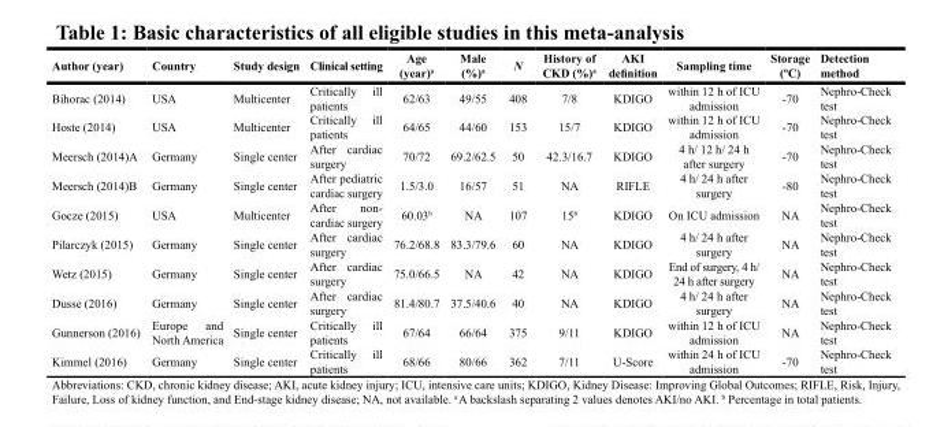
<table><thead><tr><td>Author (year)</td><td>Country</td><td>Study design</td><td>Clinical setting</td><td>Age (year)<sup>a</sup></td><td>Male (%)<sup>a</sup></td><td>N</td><td>History of CKD (%)<sup>a</sup></td><td>AKI definition</td><td>Sampling time</td><td>Storage (ºC)</td><td>Detection method</td></tr></thead><tbody><tr><td>Bihorac (2014)</td><td>USA</td><td>Multicenter</td><td>Critically ill patients</td><td>62/63</td><td>49/55</td><td>408</td><td>7/8</td><td>KDIGO</td><td>within 12 h of ICU admission</td><td>-70</td><td>Nephro-Check test</td></tr><tr><td>Hoste (2014)</td><td>USA</td><td>Multicenter</td><td>Critically ill patients</td><td>64/65</td><td>44/60</td><td>153</td><td>15/7</td><td>KDIGO</td><td>within 12 h of ICU admission</td><td>-70</td><td>Nephro-Check test</td></tr><tr><td>Meersch (2014)A</td><td>Germany</td><td>Single center</td><td>After cardiac surgery</td><td>70/72</td><td>69.2/62.5</td><td>50</td><td>42.3/16.7</td><td>KDIGO</td><td>4 h/ 12 h/ 24 h after surgery</td><td>-70</td><td>Nephro-Check test</td></tr><tr><td>Meersch (2014)B</td><td>Germany</td><td>Single center</td><td>After pediatric cardiac surgery</td><td>1.5/3.0</td><td>16/57</td><td>51</td><td>NA</td><td>RIFLE</td><td>4 h/ 24 h after surgery</td><td>-80</td><td>Nephro-Check test</td></tr><tr><td>Gocze (2015)</td><td>USA</td><td>Multicenter</td><td>After non- cardiac surgery</td><td>60.03<sup>b</sup></td><td>NA</td><td>107</td><td>15<sup>b</sup></td><td>KDIGO</td><td>On ICU admission</td><td>NA</td><td>Nephro-Check test</td></tr><tr><td>Pilarczyk (2015)</td><td>Germany</td><td>Single center</td><td>After cardiac surgery</td><td>76.2/68.8</td><td>83.3/79.6</td><td>60</td><td>NA</td><td>KDIGO</td><td>4 h/ 24 h after surgery</td><td>NA</td><td>Nephro-Check test</td></tr><tr><td>Wetz (2015)</td><td>Germany</td><td>Single center</td><td>After cardiac surgery</td><td>75.0/66.5</td><td>NA</td><td>42</td><td>NA</td><td>KDIGO</td><td>End of surgery, 4 h/ 24 h after surgery</td><td>NA</td><td>Nephro-Check test</td></tr><tr><td>Dusse (2016)</td><td>Germany</td><td>Single center</td><td>After cardiac surgery</td><td>81.4/80.7</td><td>37.5/40.6</td><td>40</td><td>NA</td><td>KDIGO</td><td>4 h/ 24 h after surgery</td><td>NA</td><td>Nephro-Check test</td></tr><tr><td>Gunnerson (2016)</td><td>Europe and North America</td><td>Single center</td><td>Critically ill patients</td><td>67/64</td><td>66/64</td><td>375</td><td>9/11</td><td>KDIGO</td><td>within 12 h of ICU admission</td><td>NA</td><td>Nephro-Check test</td></tr><tr><td>Kimmel (2016)</td><td>Germany</td><td>Single center</td><td>Critically ill patients</td><td>68/66</td><td>80/66</td><td>362</td><td>7/11</td><td>U-Score</td><td>within 24 h of ICU admission</td><td>-70</td><td>Nephro-Check test</td></tr></tbody></table>